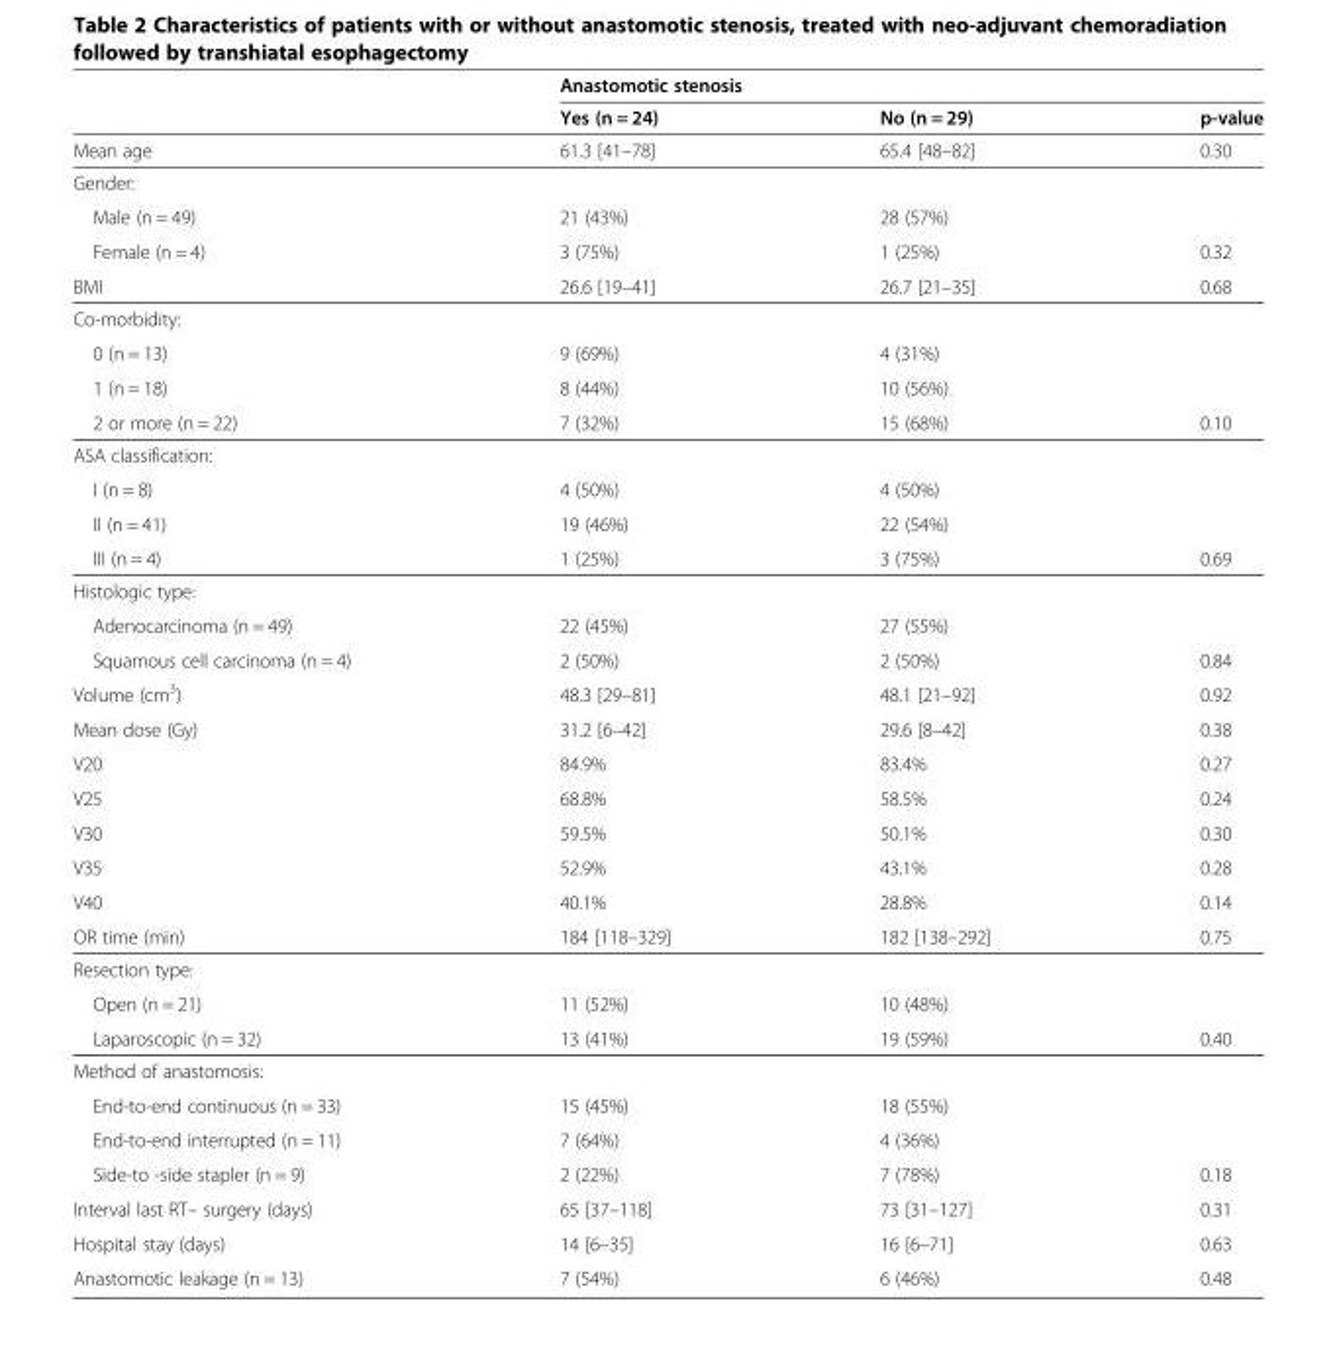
<table><thead><tr><td rowspan="2"></td><td colspan="3">Anastomotic stenosis</td></tr><tr><td>Yes (n = 24)</td><td>No (n = 29)</td><td>p-value</td></tr></thead><tbody><tr><td>Mean age</td><td>61.3 [41–78]</td><td>65.4 [48–82]</td><td>0.30</td></tr><tr><td colspan="4">Gender:</td></tr><tr><td>Male (n = 49)</td><td>21 (43%)</td><td>28 (57%)</td><td></td></tr><tr><td>Female (n = 4)</td><td>3 (75%)</td><td>1 (25%)</td><td>0.32</td></tr><tr><td>BMI</td><td>26.6 [19–41]</td><td>26.7 [21–35]</td><td>0.68</td></tr><tr><td colspan="4">Co-morbidity:</td></tr><tr><td>0 (n = 13)</td><td>9 (69%)</td><td>4 (31%)</td><td></td></tr><tr><td>1 (n = 18)</td><td>8 (44%)</td><td>10 (56%)</td><td></td></tr><tr><td>2 or more (n = 22)</td><td>7 (32%)</td><td>15 (68%)</td><td>0.10</td></tr><tr><td colspan="4">ASA classification:</td></tr><tr><td>I (n = 8)</td><td>4 (50%)</td><td>4 (50%)</td><td></td></tr><tr><td>II (n = 41)</td><td>19 (46%)</td><td>22 (54%)</td><td></td></tr><tr><td>III (n = 4)</td><td>1 (25%)</td><td>3 (75%)</td><td>0.69</td></tr><tr><td colspan="4">Histologic type:</td></tr><tr><td>Adenocarcinoma (n = 49)</td><td>22 (45%)</td><td>27 (55%)</td><td></td></tr><tr><td>Squamous cell carcinoma (n = 4)</td><td>2 (50%)</td><td>2 (50%)</td><td>0.84</td></tr><tr><td>Volume (cm<sup>3</sup>)</td><td>48.3 [29–81]</td><td>48.1 [21–92]</td><td>0.92</td></tr><tr><td>Mean dose (Gy)</td><td>31.2 [6–42]</td><td>29.6 [8–42]</td><td>0.38</td></tr><tr><td>V20</td><td>84.9%</td><td>83.4%</td><td>0.27</td></tr><tr><td>V25</td><td>68.8%</td><td>58.5%</td><td>0.24</td></tr><tr><td>V30</td><td>59.5%</td><td>50.1%</td><td>0.30</td></tr><tr><td>V35</td><td>52.9%</td><td>43.1%</td><td>0.28</td></tr><tr><td>V40</td><td>40.1%</td><td>28.8%</td><td>0.14</td></tr><tr><td>OR time (min)</td><td>184 [118–329]</td><td>182 [138–292]</td><td>0.75</td></tr><tr><td colspan="4">Resection type:</td></tr><tr><td>Open (n = 21)</td><td>11 (52%)</td><td>10 (48%)</td><td></td></tr><tr><td>Laparoscopic (n = 32)</td><td>13 (41%)</td><td>19 (59%)</td><td>0.40</td></tr><tr><td colspan="4">Method of anastomosis:</td></tr><tr><td>End-to-end continuous (n = 33)</td><td>15 (45%)</td><td>18 (55%)</td><td></td></tr><tr><td>End-to-end interrupted (n = 11)</td><td>7 (64%)</td><td>4 (36%)</td><td></td></tr><tr><td>Side-to -side stapler (n = 9)</td><td>2 (22%)</td><td>7 (78%)</td><td>0.18</td></tr><tr><td>Interval last RT– surgery (days)</td><td>65 [37–118]</td><td>73 [31–127]</td><td>0.31</td></tr><tr><td>Hospital stay (days)</td><td>14 [6–35]</td><td>16 [6–71]</td><td>0.63</td></tr><tr><td>Anastomotic leakage (n = 13)</td><td>7 (54%)</td><td>6 (46%)</td><td>0.48</td></tr></tbody></table>